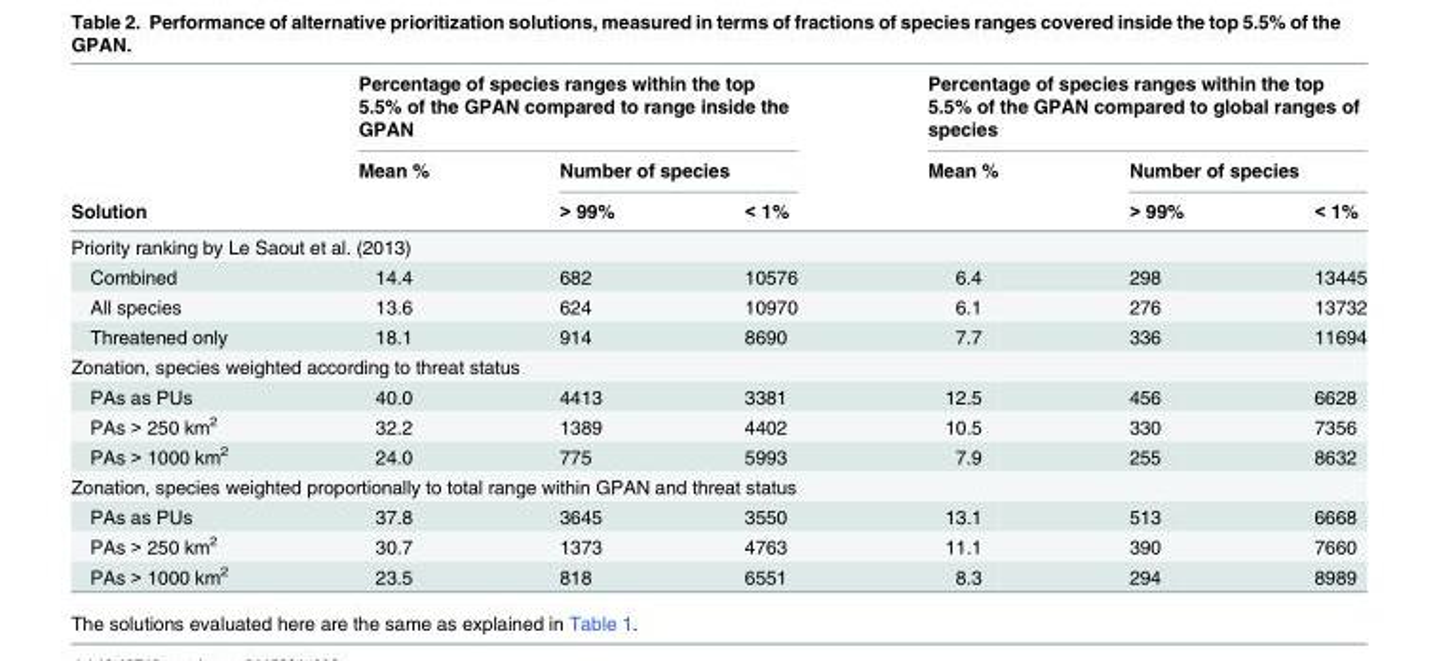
<table><thead><tr><td rowspan="3">Solution</td><td colspan="3">Percentage of species ranges within the top 5.5% of the GPAN compared to range inside the GPAN</td><td colspan="3">Percentage of species ranges within the top 5.5% of the GPAN compared to global ranges of species</td></tr><tr><td rowspan="2">Mean %</td><td colspan="2">Number of species</td><td rowspan="2">Mean %</td><td colspan="2">Number of species</td></tr><tr><td>&gt; 99%</td><td>&lt; 1%</td><td>&gt; 99%</td><td>&lt; 1%</td></tr></thead><tbody><tr><td colspan="7">Priority ranking by Le Saout et al. (2013)</td></tr><tr><td>Combined</td><td>14.4</td><td>682</td><td>10576</td><td>6.4</td><td>298</td><td>13445</td></tr><tr><td>All species</td><td>13.6</td><td>624</td><td>10970</td><td>6.1</td><td>276</td><td>13732</td></tr><tr><td>Threatened only</td><td>18.1</td><td>914</td><td>8690</td><td>7.7</td><td>336</td><td>11694</td></tr><tr><td colspan="7">Zonation, species weighted according to threat status</td></tr><tr><td>PAs as PUs</td><td>40.0</td><td>4413</td><td>3381</td><td>12.5</td><td>456</td><td>6628</td></tr><tr><td>PAs &gt; 250 km<sup>2</sup></td><td>32.2</td><td>1389</td><td>4402</td><td>10.5</td><td>330</td><td>7356</td></tr><tr><td>PAs &gt; 1000 km<sup>2</sup></td><td>24.0</td><td>775</td><td>5993</td><td>7.9</td><td>255</td><td>8632</td></tr><tr><td colspan="7">Zonation, species weighted proportionally to total range within GPAN and threat status</td></tr><tr><td>PAs as PUs</td><td>37.8</td><td>3645</td><td>3550</td><td>13.1</td><td>513</td><td>6668</td></tr><tr><td>PAs &gt; 250 km<sup>2</sup></td><td>30.7</td><td>1373</td><td>4763</td><td>11.1</td><td>390</td><td>7660</td></tr><tr><td>PAs &gt; 1000 km<sup>2</sup></td><td>23.5</td><td>818</td><td>6551</td><td>8.3</td><td>294</td><td>8989</td></tr></tbody></table>